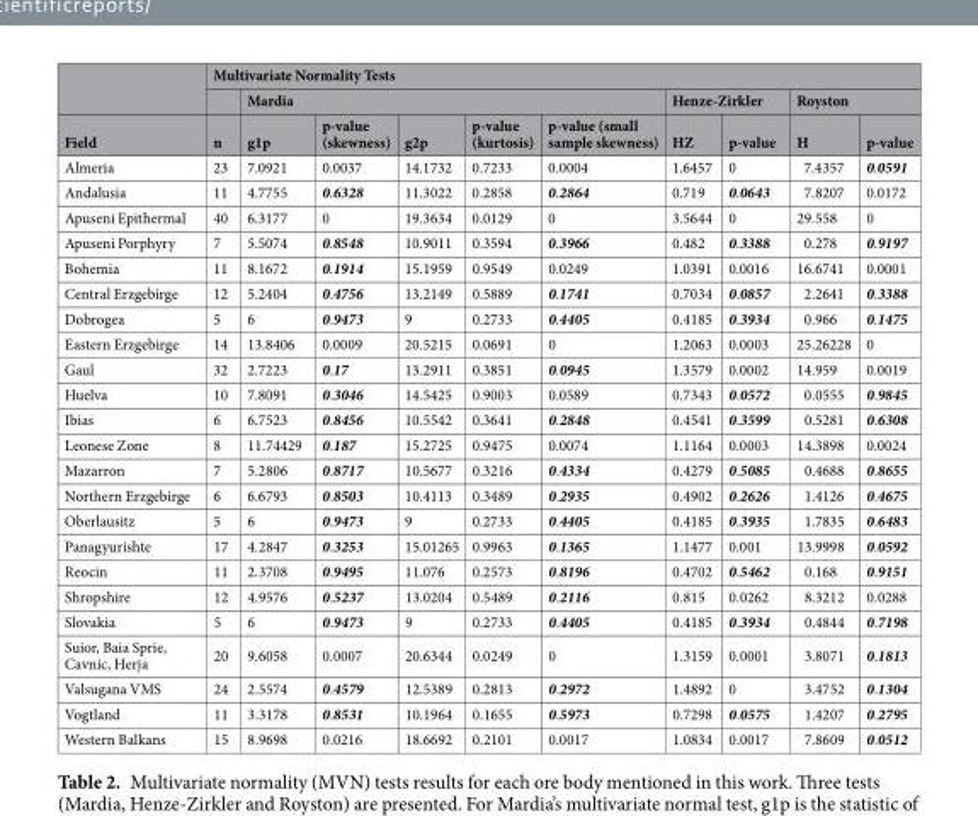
<table><thead><tr><td rowspan="3">Field</td><td colspan="10">Multivariate Normality Tests</td></tr><tr><td rowspan="2">n</td><td colspan="5">Mardia</td><td colspan="2">Henze-Zirkler</td><td colspan="2">Royston</td></tr><tr><td>g1p</td><td>p-value (skewness)</td><td>g2p</td><td>p-value (kurtosis)</td><td>p-value (small sample skewness)</td><td>HZ</td><td>p-value</td><td>H</td><td>p-value</td></tr></thead><tbody><tr><td>Almeria</td><td>23</td><td>7.0921</td><td>0.0037</td><td>14.1732</td><td>0.7233</td><td>0.0004</td><td>1.6457</td><td>0</td><td>7.4357</td><td>0.0591</td></tr><tr><td>Andalusia</td><td>11</td><td>4.7755</td><td>0.6328</td><td>11.3022</td><td>0.2858</td><td>0.2864</td><td>0.719</td><td>0.0643</td><td>7.8207</td><td>0.0172</td></tr><tr><td>Apuseni Epithermal</td><td>40</td><td>6.3177</td><td>0</td><td>19.3634</td><td>0.0129</td><td>0</td><td>3.5644</td><td>0</td><td>29.558</td><td>0</td></tr><tr><td>Apuseni Porphyry</td><td>7</td><td>5.5074</td><td>0.8548</td><td>10.9011</td><td>0.3594</td><td>0.3966</td><td>0.482</td><td>0.3388</td><td>0.278</td><td>0.9197</td></tr><tr><td>Bohemia</td><td>11</td><td>8.1672</td><td>0.1914</td><td>15.1959</td><td>0.9549</td><td>0.0249</td><td>1.0391</td><td>0.0016</td><td>16.6741</td><td>0.0001</td></tr><tr><td>Central Erzgebirge</td><td>12</td><td>5.2404</td><td>0.4756</td><td>13.2149</td><td>0.5889</td><td>0.1741</td><td>0.7034</td><td>0.0857</td><td>2.2641</td><td>0.3388</td></tr><tr><td>Dobrogea</td><td>5</td><td>6</td><td>0.9473</td><td>9</td><td>0.2733</td><td>0.4405</td><td>0.4185</td><td>0.3934</td><td>0.966</td><td>0.1475</td></tr><tr><td>Eastern Erzgebirge</td><td>14</td><td>13.8406</td><td>0.0009</td><td>20.5215</td><td>0.0691</td><td>0</td><td>1.2063</td><td>0.0003</td><td>25.26228</td><td>0</td></tr><tr><td>Gaul</td><td>32</td><td>2.7223</td><td>0.17</td><td>13.2911</td><td>0.3851</td><td>0.0945</td><td>1.3579</td><td>0.0002</td><td>14.959</td><td>0.0019</td></tr><tr><td>Huelva</td><td>10</td><td>7.8091</td><td>0.3046</td><td>14.5425</td><td>0.9003</td><td>0.0589</td><td>0.7343</td><td>0.0572</td><td>0.0555</td><td>0.9845</td></tr><tr><td>Ibias</td><td>6</td><td>6.7523</td><td>0.8456</td><td>10.5542</td><td>0.3641</td><td>0.2848</td><td>0.4541</td><td>0.3599</td><td>0.5281</td><td>0.6308</td></tr><tr><td>Leonese Zone</td><td>8</td><td>11.74429</td><td>0.187</td><td>15.2725</td><td>0.9475</td><td>0.0074</td><td>1.1164</td><td>0.0003</td><td>14.3898</td><td>0.0024</td></tr><tr><td>Mazarron</td><td>7</td><td>5.2806</td><td>0.8717</td><td>10.5677</td><td>0.3216</td><td>0.4334</td><td>0.4279</td><td>0.5085</td><td>0.4688</td><td>0.8655</td></tr><tr><td>Northern Erzgebirge</td><td>6</td><td>6.6793</td><td>0.8503</td><td>10.4113</td><td>0.3489</td><td>0.2935</td><td>0.4902</td><td>0.2626</td><td>1.4126</td><td>0.4675</td></tr><tr><td>Oberlausitz</td><td>5</td><td>6</td><td>0.9473</td><td>9</td><td>0.2733</td><td>0.4405</td><td>0.4185</td><td>0.3935</td><td>1.7835</td><td>0.6483</td></tr><tr><td>Panagyurishte</td><td>17</td><td>4.2847</td><td>0.3253</td><td>15.01265</td><td>0.9963</td><td>0.1365</td><td>1.1477</td><td>0.001</td><td>13.9998</td><td>0.0592</td></tr><tr><td>Reocin</td><td>11</td><td>2.3708</td><td>0.9495</td><td>11.076</td><td>0.2573</td><td>0.8196</td><td>0.4702</td><td>0.5462</td><td>0.168</td><td>0.9151</td></tr><tr><td>Shropshire</td><td>12</td><td>4.9576</td><td>0.5237</td><td>13.0204</td><td>0.5489</td><td>0.2116</td><td>0.815</td><td>0.0262</td><td>8.3212</td><td>0.0288</td></tr><tr><td>Slovakia</td><td>5</td><td>6</td><td>0.9473</td><td>9</td><td>0.2733</td><td>0.4405</td><td>0.4185</td><td>0.3934</td><td>0.4844</td><td>0.7198</td></tr><tr><td>Suior, Baia Sprie, Cavnic, Herja</td><td>20</td><td>9.6058</td><td>0.0007</td><td>20.6344</td><td>0.0249</td><td>0</td><td>1.3159</td><td>0.0001</td><td>3.8071</td><td>0.1813</td></tr><tr><td>Valsugana VMS</td><td>24</td><td>2.5574</td><td>0.4579</td><td>12.5389</td><td>0.2813</td><td>0.2972</td><td>1.4892</td><td>0</td><td>3.4752</td><td>0.1304</td></tr><tr><td>Vogtland</td><td>11</td><td>3.3178</td><td>0.8531</td><td>10.1964</td><td>0.1655</td><td>0.5973</td><td>0.7298</td><td>0.0575</td><td>1.4207</td><td>0.2795</td></tr><tr><td>Western Balkans</td><td>15</td><td>8.9698</td><td>0.0216</td><td>18.6692</td><td>0.2101</td><td>0.0017</td><td>1.0834</td><td>0.0017</td><td>7.8609</td><td>0.0512</td></tr></tbody></table>